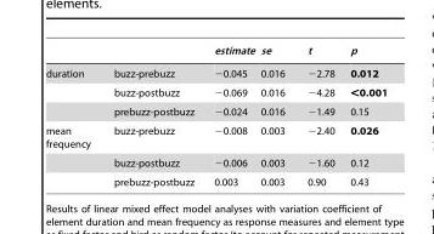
<table><thead><tr><td></td><td></td><td>estimate</td><td>se</td><td>t</td><td>p</td></tr></thead><tbody><tr><td rowspan="3">duration</td><td>buzz-prebuzz</td><td>−0.045</td><td>0.016</td><td>−2.78</td><td>0.012</td></tr><tr><td>buzz-postbuzz</td><td>−0.069</td><td>0.016</td><td>−4.28</td><td>&lt;0.001</td></tr><tr><td>prebuzz-postbuzz</td><td>−0.024</td><td>0.016</td><td>−1.49</td><td>0.15</td></tr><tr><td rowspan="3">mean frequency</td><td>buzz-prebuzz</td><td>−0.008</td><td>0.003</td><td>−2.40</td><td>0.026</td></tr><tr><td>buzz-postbuzz</td><td>−0.006</td><td>0.003</td><td>−1.60</td><td>0.12</td></tr><tr><td>prebuzz-postbuzz</td><td>0.003</td><td>0.003</td><td>0.90</td><td>0.43</td></tr></tbody></table>